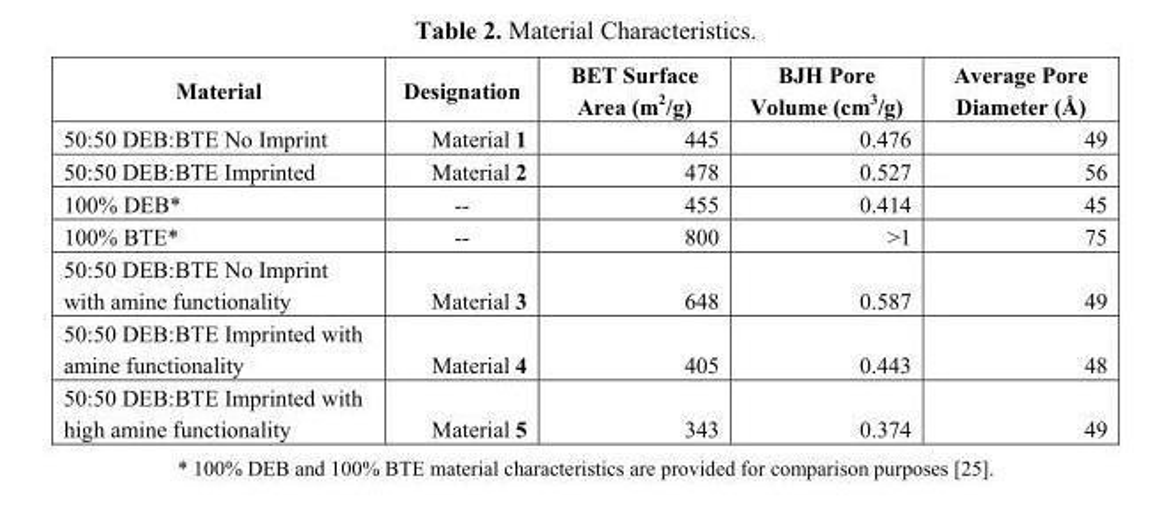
<table><thead><tr><td>Material</td><td>Designation</td><td>BET Surface Area (m<sup>2</sup>/g)</td><td>BJH Pore Volume (cm<sup>3</sup>/g)</td><td>Average Pore Diameter (Å)</td></tr></thead><tbody><tr><td>50:50 DEB:BTE No Imprint</td><td>Material 1</td><td>445</td><td>0.476</td><td>49</td></tr><tr><td>50:50 DEB:BTE Imprinted</td><td>Material 2</td><td>478</td><td>0.527</td><td>56</td></tr><tr><td>100% DEB*</td><td>--</td><td>455</td><td>0.414</td><td>45</td></tr><tr><td>100% BTE*</td><td>--</td><td>800</td><td>&gt;1</td><td>75</td></tr><tr><td>50:50 DEB:BTE No Imprint with amine functionality</td><td>Material 3</td><td>648</td><td>0.587</td><td>49</td></tr><tr><td>50:50 DEB:BTE Imprinted with amine functionality</td><td>Material 4</td><td>405</td><td>0.443</td><td>48</td></tr><tr><td>50:50 DEB:BTE Imprinted with high amine functionality</td><td>Material 5</td><td>343</td><td>0.374</td><td>49</td></tr></tbody></table>